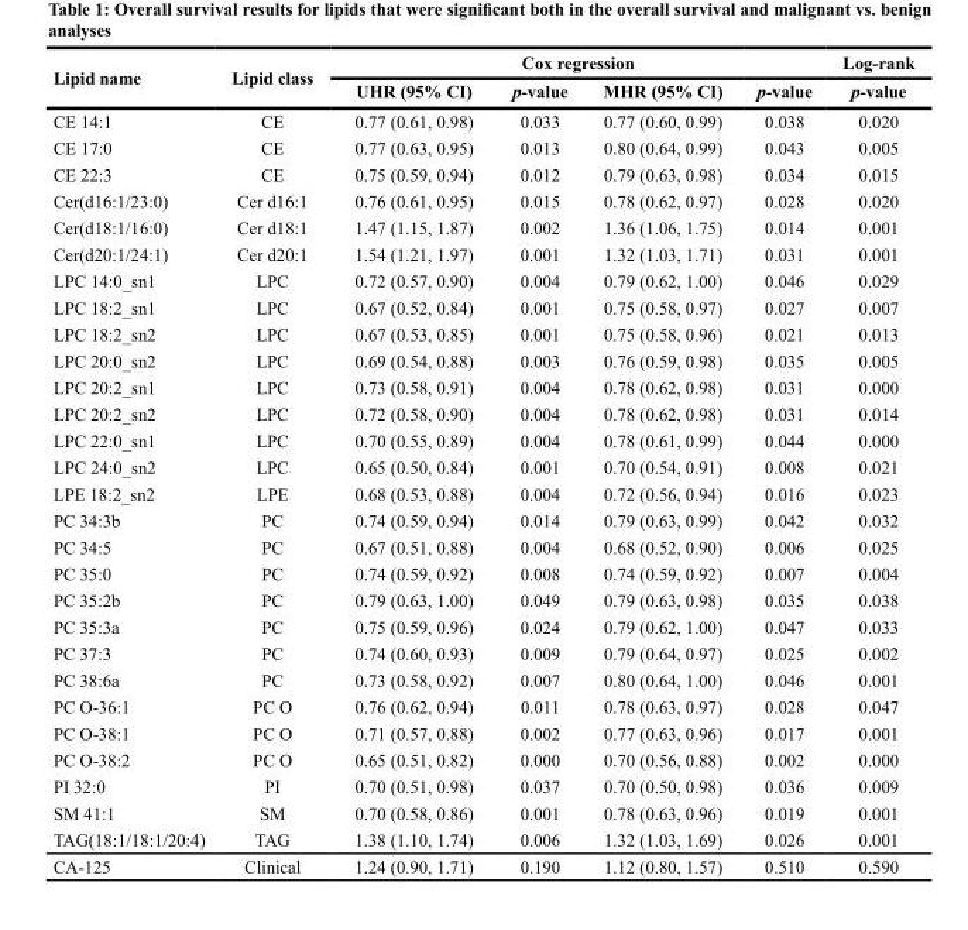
<table><thead><tr><td rowspan="2">Lipid name</td><td rowspan="2">Lipid class</td><td colspan="4">Cox regression</td><td rowspan="2">Log-rank p-value</td></tr><tr><td>UHR (95% CI)</td><td>p-value</td><td>MHR (95% CI)</td><td>p-value</td></tr></thead><tbody><tr><td>CE 14:1</td><td>CE</td><td>0.77 (0.61, 0.98)</td><td>0.033</td><td>0.77 (0.60, 0.99)</td><td>0.038</td><td>0.020</td></tr><tr><td>CE 17:0</td><td>CE</td><td>0.77 (0.63, 0.95)</td><td>0.013</td><td>0.80 (0.64, 0.99)</td><td>0.043</td><td>0.005</td></tr><tr><td>CE 22:3</td><td>CE</td><td>0.75 (0.59, 0.94)</td><td>0.012</td><td>0.79 (0.63, 0.98)</td><td>0.034</td><td>0.015</td></tr><tr><td>Cer(d16:1/23:0)</td><td>Cer d16:1</td><td>0.76 (0.61, 0.95)</td><td>0.015</td><td>0.78 (0.62, 0.97)</td><td>0.028</td><td>0.020</td></tr><tr><td>Cer(d18:1/16:0)</td><td>Cer d18:1</td><td>1.47 (1.15, 1.87)</td><td>0.002</td><td>1.36 (1.06, 1.75)</td><td>0.014</td><td>0.001</td></tr><tr><td>Cer(d20:1/24:1)</td><td>Cer d20:1</td><td>1.54 (1.21, 1.97)</td><td>0.001</td><td>1.32 (1.03, 1.71)</td><td>0.031</td><td>0.001</td></tr><tr><td>LPC 14:0_sn1</td><td>LPC</td><td>0.72 (0.57, 0.90)</td><td>0.004</td><td>0.79 (0.62, 1.00)</td><td>0.046</td><td>0.029</td></tr><tr><td>LPC 18:2_sn1</td><td>LPC</td><td>0.67 (0.52, 0.84)</td><td>0.001</td><td>0.75 (0.58, 0.97)</td><td>0.027</td><td>0.007</td></tr><tr><td>LPC 18:2_sn2</td><td>LPC</td><td>0.67 (0.53, 0.85)</td><td>0.001</td><td>0.75 (0.58, 0.96)</td><td>0.021</td><td>0.013</td></tr><tr><td>LPC 20:0_sn2</td><td>LPC</td><td>0.69 (0.54, 0.88)</td><td>0.003</td><td>0.76 (0.59, 0.98)</td><td>0.035</td><td>0.005</td></tr><tr><td>LPC 20:2_sn1</td><td>LPC</td><td>0.73 (0.58, 0.91)</td><td>0.004</td><td>0.78 (0.62, 0.98)</td><td>0.031</td><td>0.000</td></tr><tr><td>LPC 20:2_sn2</td><td>LPC</td><td>0.72 (0.58, 0.90)</td><td>0.004</td><td>0.78 (0.62, 0.98)</td><td>0.031</td><td>0.014</td></tr><tr><td>LPC 22:0_sn1</td><td>LPC</td><td>0.70 (0.55, 0.89)</td><td>0.004</td><td>0.78 (0.61, 0.99)</td><td>0.044</td><td>0.000</td></tr><tr><td>LPC 24:0_sn2</td><td>LPC</td><td>0.65 (0.50, 0.84)</td><td>0.001</td><td>0.70 (0.54, 0.91)</td><td>0.008</td><td>0.021</td></tr><tr><td>LPE 18:2_sn2</td><td>LPE</td><td>0.68 (0.53, 0.88)</td><td>0.004</td><td>0.72 (0.56, 0.94)</td><td>0.016</td><td>0.023</td></tr><tr><td>PC 34:3b</td><td>PC</td><td>0.74 (0.59, 0.94)</td><td>0.014</td><td>0.79 (0.63, 0.99)</td><td>0.042</td><td>0.032</td></tr><tr><td>PC 34:5</td><td>PC</td><td>0.67 (0.51, 0.88)</td><td>0.004</td><td>0.68 (0.52, 0.90)</td><td>0.006</td><td>0.025</td></tr><tr><td>PC 35:0</td><td>PC</td><td>0.74 (0.59, 0.92)</td><td>0.008</td><td>0.74 (0.59, 0.92)</td><td>0.007</td><td>0.004</td></tr><tr><td>PC 35:2b</td><td>PC</td><td>0.79 (0.63, 1.00)</td><td>0.049</td><td>0.79 (0.63, 0.98)</td><td>0.035</td><td>0.038</td></tr><tr><td>PC 35:3a</td><td>PC</td><td>0.75 (0.59, 0.96)</td><td>0.024</td><td>0.79 (0.62, 1.00)</td><td>0.047</td><td>0.033</td></tr><tr><td>PC 37:3</td><td>PC</td><td>0.74 (0.60, 0.93)</td><td>0.009</td><td>0.79 (0.64, 0.97)</td><td>0.025</td><td>0.002</td></tr><tr><td>PC 38:6a</td><td>PC</td><td>0.73 (0.58, 0.92)</td><td>0.007</td><td>0.80 (0.64, 1.00)</td><td>0.046</td><td>0.001</td></tr><tr><td>PC O-36:1</td><td>PC O</td><td>0.76 (0.62, 0.94)</td><td>0.011</td><td>0.78 (0.63, 0.97)</td><td>0.028</td><td>0.047</td></tr><tr><td>PC O-38:1</td><td>PC O</td><td>0.71 (0.57, 0.88)</td><td>0.002</td><td>0.77 (0.63, 0.96)</td><td>0.017</td><td>0.001</td></tr><tr><td>PC O-38:2</td><td>PC O</td><td>0.65 (0.51, 0.82)</td><td>0.000</td><td>0.70 (0.56, 0.88)</td><td>0.002</td><td>0.000</td></tr><tr><td>PI 32:0</td><td>PI</td><td>0.70 (0.51, 0.98)</td><td>0.037</td><td>0.70 (0.50, 0.98)</td><td>0.036</td><td>0.009</td></tr><tr><td>SM 41:1</td><td>SM</td><td>0.70 (0.58, 0.86)</td><td>0.001</td><td>0.78 (0.63, 0.96)</td><td>0.019</td><td>0.001</td></tr><tr><td>TAG(18:1/18:1/20:4)</td><td>TAG</td><td>1.38 (1.10, 1.74)</td><td>0.006</td><td>1.32 (1.03, 1.69)</td><td>0.026</td><td>0.001</td></tr><tr><td>CA-125</td><td>Clinical</td><td>1.24 (0.90, 1.71)</td><td>0.190</td><td>1.12 (0.80, 1.57)</td><td>0.510</td><td>0.590</td></tr></tbody></table>